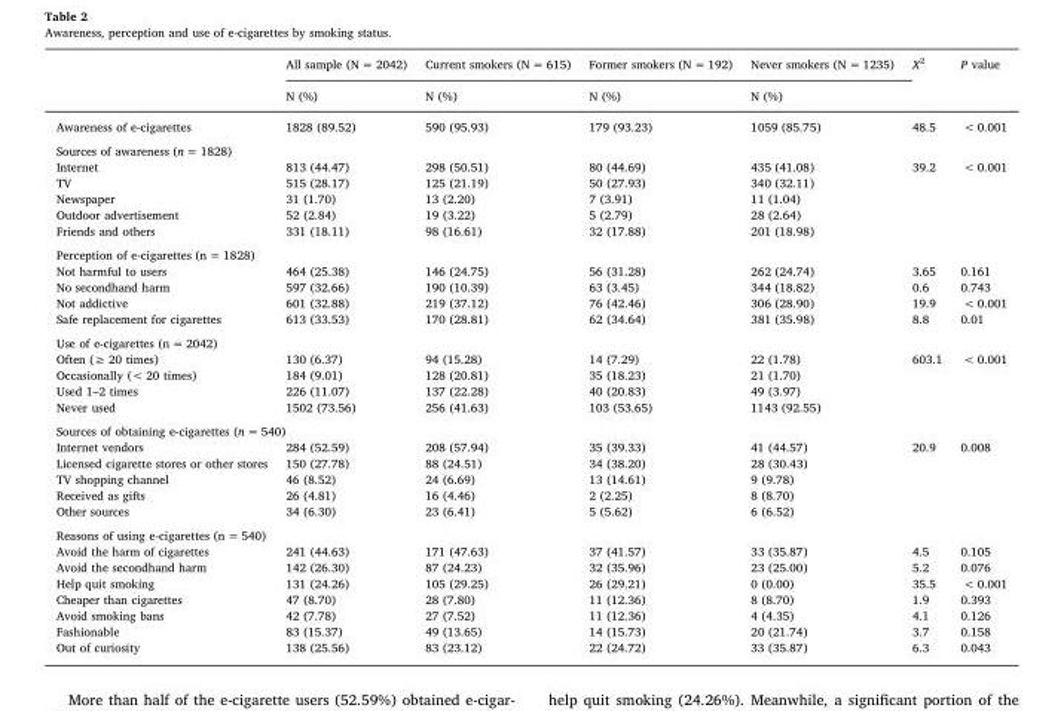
<table><thead><tr><td rowspan="2"></td><td rowspan="2">All sample (N = 2042) N (%)</td><td rowspan="2">Current smokers (N = 615) N (%)</td><td rowspan="2">Former smokers (N = 192) N (%)</td><td rowspan="2">Never smokers (N = 1235) N (%)</td><td rowspan="2">X2</td><td rowspan="2">P value</td></tr><tr></tr></thead><tbody><tr><td>Awareness of e-cigarettes</td><td>1828 (89.52)</td><td>590 (95.93)</td><td>179 (93.23)</td><td>1059 (85.75)</td><td>48.5</td><td>&lt; 0.001</td></tr><tr><td colspan="7">Sources of awareness (n = 1828)</td></tr><tr><td>Internet</td><td>813 (44.47)</td><td>298 (50.51)</td><td>80 (44.69)</td><td>435 (41.08)</td><td rowspan="5">39.2</td><td rowspan="5">&lt; 0.001</td></tr><tr><td>TV</td><td>515 (28.17)</td><td>125 (21.19)</td><td>50 (27.93)</td><td>340 (32.11)</td></tr><tr><td>Newspaper</td><td>31 (1.70)</td><td>13 (2.20)</td><td>7 (3.91)</td><td>11 (1.04)</td></tr><tr><td>Outdoor advertisement</td><td>52 (2.84)</td><td>19 (3.22)</td><td>5 (2.79)</td><td>28 (2.64)</td></tr><tr><td>Friends and others</td><td>331 (18.11)</td><td>98 (16.61)</td><td>32 (17.88)</td><td>201 (18.98)</td></tr><tr><td colspan="7">Perception of e-cigarettes (n = 1828)</td></tr><tr><td>Not harmful to users</td><td>464 (25.38)</td><td>146 (24.75)</td><td>56 (31.28)</td><td>262 (24.74)</td><td>3.65</td><td>0.161</td></tr><tr><td>No secondhand harm</td><td>597 (32.66)</td><td>190 (10.39)</td><td>63 (3.45)</td><td>344 (18.82)</td><td>0.6</td><td>0.743</td></tr><tr><td>Not addictive</td><td>601 (32.88)</td><td>219 (37.12)</td><td>76 (42.46)</td><td>306 (28.90)</td><td>19.9</td><td>&lt; 0.001</td></tr><tr><td>Safe replacement for cigarettes</td><td>613 (33.53)</td><td>170 (28.81)</td><td>62 (34.64)</td><td>381 (35.98)</td><td>8.8</td><td>0.01</td></tr><tr><td colspan="7">Use of e-cigarettes (n = 2042)</td></tr><tr><td>Often (≥ 20 times)</td><td>130 (6.37)</td><td>94 (15.28)</td><td>14 (7.29)</td><td>22 (1.78)</td><td rowspan="4">603.1</td><td rowspan="4">&lt; 0.001</td></tr><tr><td>Occasionally (&lt; 20 times)</td><td>184 (9.01)</td><td>128 (20.81)</td><td>35 (18.23)</td><td>21 (1.70)</td></tr><tr><td>Used 1–2 times</td><td>226 (11.07)</td><td>137 (22.28)</td><td>40 (20.83)</td><td>49 (3.97)</td></tr><tr><td>Never used</td><td>1502 (73.56)</td><td>256 (41.63)</td><td>103 (53.65)</td><td>1143 (92.55)</td></tr><tr><td colspan="7">Sources of obtaining e-cigarettes (n = 540)</td></tr><tr><td>Internet vendors</td><td>284 (52.59)</td><td>208 (57.94)</td><td>35 (39.33)</td><td>41 (44.57)</td><td rowspan="5">20.9</td><td rowspan="5">0.008</td></tr><tr><td>Licensed cigarette stores or other stores</td><td>150 (27.78)</td><td>88 (24.51)</td><td>34 (38.20)</td><td>28 (30.43)</td></tr><tr><td>TV shopping channel</td><td>46 (8.52)</td><td>24 (6.69)</td><td>13 (14.61)</td><td>9 (9.78)</td></tr><tr><td>Received as gifts</td><td>26 (4.81)</td><td>16 (4.46)</td><td>2 (2.25)</td><td>8 (8.70)</td></tr><tr><td>Other sources</td><td>34 (6.30)</td><td>23 (6.41)</td><td>5 (5.62)</td><td>6 (6.52)</td></tr><tr><td colspan="7">Reasons of using e-cigarettes (n = 540)</td></tr><tr><td>Avoid the harm of cigarettes</td><td>241 (44.63)</td><td>171 (47.63)</td><td>37 (41.57)</td><td>33 (35.87)</td><td>4.5</td><td>0.105</td></tr><tr><td>Avoid the secondhand harm</td><td>142 (26.30)</td><td>87 (24.23)</td><td>32 (35.96)</td><td>23 (25.00)</td><td>5.2</td><td>0.076</td></tr><tr><td>Help quit smoking</td><td>131 (24.26)</td><td>105 (29.25)</td><td>26 (29.21)</td><td>0 (0.00)</td><td>35.5</td><td>&lt; 0.001</td></tr><tr><td>Cheaper than cigarettes</td><td>47 (8.70)</td><td>28 (7.80)</td><td>11 (12.36)</td><td>8 (8.70)</td><td>1.9</td><td>0.393</td></tr><tr><td>Avoid smoking bans</td><td>42 (7.78)</td><td>27 (7.52)</td><td>11 (12.36)</td><td>4 (4.35)</td><td>4.1</td><td>0.126</td></tr><tr><td>Fashionable</td><td>83 (15.37)</td><td>49 (13.65)</td><td>14 (15.73)</td><td>20 (21.74)</td><td>3.7</td><td>0.158</td></tr><tr><td>Out of curiosity</td><td>138 (25.56)</td><td>83 (23.12)</td><td>22 (24.72)</td><td>33 (35.87)</td><td>6.3</td><td>0.043</td></tr></tbody></table>